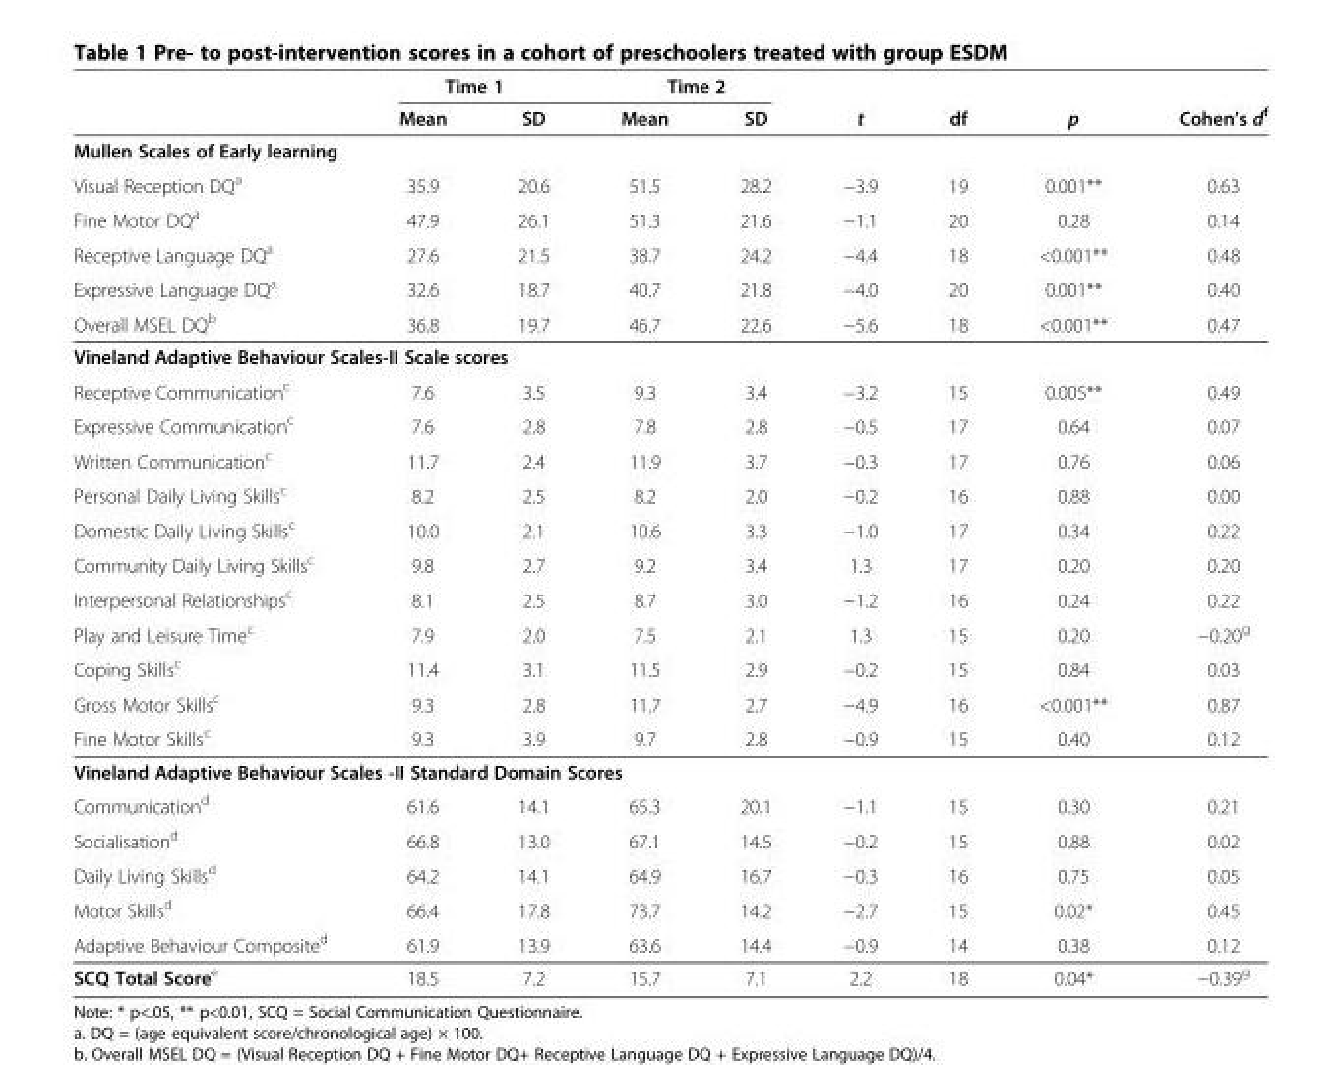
<table><thead><tr><td rowspan="2"></td><td colspan="2">Time 1</td><td colspan="2">Time 2</td><td rowspan="2">t</td><td rowspan="2">df</td><td rowspan="2">p</td><td rowspan="2">Cohen’s d<sup>f</sup></td></tr><tr><td>Mean</td><td>SD</td><td>Mean</td><td>SD</td></tr></thead><tbody><tr><td colspan="9">Mullen Scales of Early learning</td></tr><tr><td>Visual Reception DQ<sup>a</sup></td><td>35.9</td><td>20.6</td><td>51.5</td><td>28.2</td><td>−3.9</td><td>19</td><td>0.001**</td><td>0.63</td></tr><tr><td>Fine Motor DQ<sup>a</sup></td><td>47.9</td><td>26.1</td><td>51.3</td><td>21.6</td><td>−1.1</td><td>20</td><td>0.28</td><td>0.14</td></tr><tr><td>Receptive Language DQ<sup>a</sup></td><td>27.6</td><td>21.5</td><td>38.7</td><td>24.2</td><td>−4.4</td><td>18</td><td>&lt;0.001**</td><td>0.48</td></tr><tr><td>Expressive Language DQ<sup>a</sup></td><td>32.6</td><td>18.7</td><td>40.7</td><td>21.8</td><td>−4.0</td><td>20</td><td>0.001**</td><td>0.40</td></tr><tr><td>Overall MSEL DQ<sup>b</sup></td><td>36.8</td><td>19.7</td><td>46.7</td><td>22.6</td><td>−5.6</td><td>18</td><td>&lt;0.001**</td><td>0.47</td></tr><tr><td colspan="9">Vineland Adaptive Behaviour Scales-II Scale scores</td></tr><tr><td>Receptive Communication<sup>c</sup></td><td>7.6</td><td>3.5</td><td>9.3</td><td>3.4</td><td>−3.2</td><td>15</td><td>0.005**</td><td>0.49</td></tr><tr><td>Expressive Communication<sup>c</sup></td><td>7.6</td><td>2.8</td><td>7.8</td><td>2.8</td><td>−0.5</td><td>17</td><td>0.64</td><td>0.07</td></tr><tr><td>Written Communication<sup>c</sup></td><td>11.7</td><td>2.4</td><td>11.9</td><td>3.7</td><td>−0.3</td><td>17</td><td>0.76</td><td>0.06</td></tr><tr><td>Personal Daily Living Skills<sup>c</sup></td><td>8.2</td><td>2.5</td><td>8.2</td><td>2.0</td><td>−0.2</td><td>16</td><td>0.88</td><td>0.00</td></tr><tr><td>Domestic Daily Living Skills<sup>c</sup></td><td>10.0</td><td>2.1</td><td>10.6</td><td>3.3</td><td>−1.0</td><td>17</td><td>0.34</td><td>0.22</td></tr><tr><td>Community Daily Living Skills<sup>c</sup></td><td>9.8</td><td>2.7</td><td>9.2</td><td>3.4</td><td>1.3</td><td>17</td><td>0.20</td><td>0.20</td></tr><tr><td>Interpersonal Relationships<sup>c</sup></td><td>8.1</td><td>2.5</td><td>8.7</td><td>3.0</td><td>−1.2</td><td>16</td><td>0.24</td><td>0.22</td></tr><tr><td>Play and Leisure Time<sup>c</sup></td><td>7.9</td><td>2.0</td><td>7.5</td><td>2.1</td><td>1.3</td><td>15</td><td>0.20</td><td>−0.20<sup>g</sup></td></tr><tr><td>Coping Skills<sup>c</sup></td><td>11.4</td><td>3.1</td><td>11.5</td><td>2.9</td><td>−0.2</td><td>15</td><td>0.84</td><td>0.03</td></tr><tr><td>Gross Motor Skills<sup>c</sup></td><td>9.3</td><td>2.8</td><td>11.7</td><td>2.7</td><td>−4.9</td><td>16</td><td>&lt;0.001**</td><td>0.87</td></tr><tr><td>Fine Motor Skills<sup>c</sup></td><td>9.3</td><td>3.9</td><td>9.7</td><td>2.8</td><td>−0.9</td><td>15</td><td>0.40</td><td>0.12</td></tr><tr><td colspan="9">Vineland Adaptive Behaviour Scales -II Standard Domain Scores</td></tr><tr><td>Communication<sup>d</sup></td><td>61.6</td><td>14.1</td><td>65.3</td><td>20.1</td><td>−1.1</td><td>15</td><td>0.30</td><td>0.21</td></tr><tr><td>Socialisation<sup>d</sup></td><td>66.8</td><td>13.0</td><td>67.1</td><td>14.5</td><td>−0.2</td><td>15</td><td>0.88</td><td>0.02</td></tr><tr><td>Daily Living Skills<sup>d</sup></td><td>64.2</td><td>14.1</td><td>64.9</td><td>16.7</td><td>−0.3</td><td>16</td><td>0.75</td><td>0.05</td></tr><tr><td>Motor Skills<sup>d</sup></td><td>66.4</td><td>17.8</td><td>73.7</td><td>14.2</td><td>−2.7</td><td>15</td><td>0.02*</td><td>0.45</td></tr><tr><td>Adaptive Behaviour Composite<sup>d</sup></td><td>61.9</td><td>13.9</td><td>63.6</td><td>14.4</td><td>−0.9</td><td>14</td><td>0.38</td><td>0.12</td></tr><tr><td>SCQ Total Score<sup>e</sup></td><td>18.5</td><td>7.2</td><td>15.7</td><td>7.1</td><td>2.2</td><td>18</td><td>0.04*</td><td>−0.39<sup>g</sup></td></tr></tbody></table>